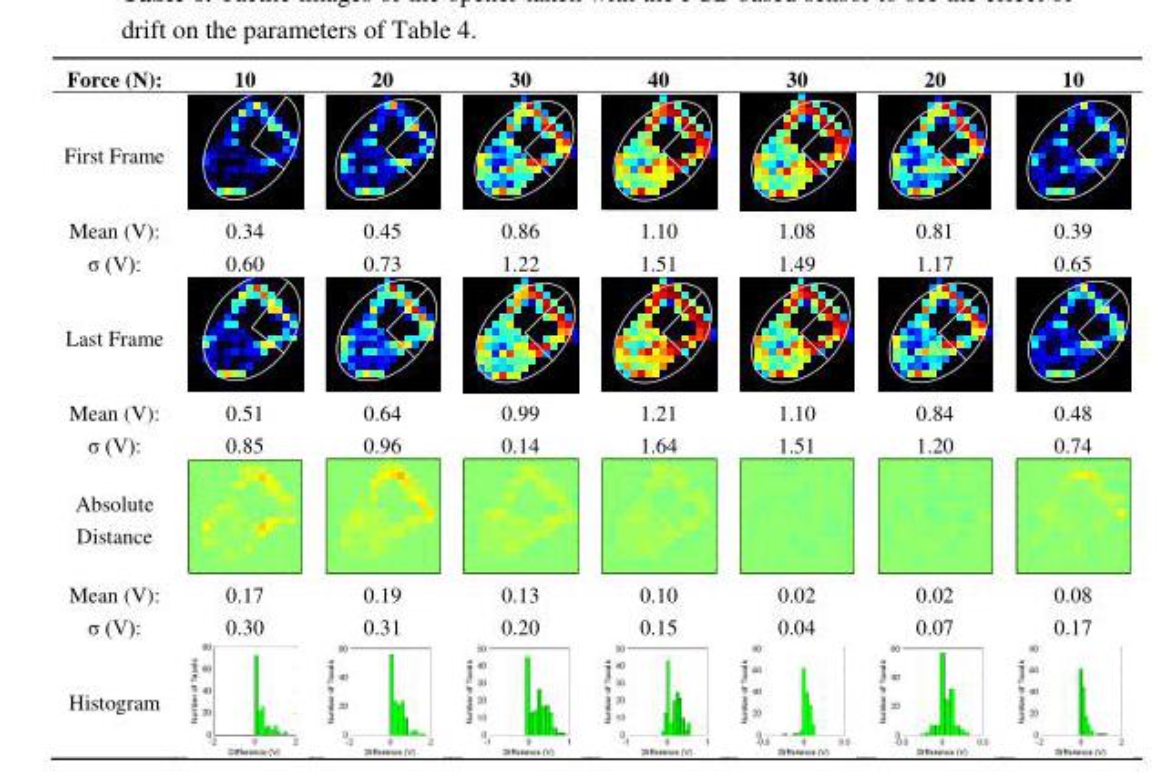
<table><thead><tr><td>Force (N):</td><td>10</td><td>20</td><td>30</td><td>40</td><td>30</td><td>20</td><td>10</td></tr></thead><tbody><tr><td colspan="8">First Frame</td></tr><tr><td>Mean (V):</td><td>0.34</td><td>0.45</td><td>0.86</td><td>1.10</td><td>1.08</td><td>0.81</td><td>0.39</td></tr><tr><td>σ (V):</td><td>0.60</td><td>0.73</td><td>1.22</td><td>1.51</td><td>1.49</td><td>1.17</td><td>0.65</td></tr><tr><td colspan="8">Last Frame</td></tr><tr><td>Mean (V):</td><td>0.51</td><td>0.64</td><td>0.99</td><td>1.21</td><td>1.10</td><td>0.84</td><td>0.48</td></tr><tr><td>σ (V):</td><td>0.85</td><td>0.96</td><td>0.14</td><td>1.64</td><td>1.51</td><td>1.20</td><td>0.74</td></tr><tr><td colspan="8">Absolute Distance</td></tr><tr><td>Mean (V):</td><td>0.17</td><td>0.19</td><td>0.13</td><td>0.10</td><td>0.02</td><td>0.02</td><td>0.08</td></tr><tr><td>σ (V):</td><td>0.30</td><td>0.31</td><td>0.20</td><td>0.15</td><td>0.04</td><td>0.07</td><td>0.17</td></tr><tr><td>Histogram</td><td></td><td></td><td></td><td></td><td></td><td></td><td></td></tr></tbody></table>